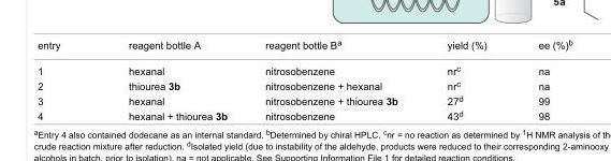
<table><tbody><tr><td>entry</td><td>reagent bottle A</td><td>reagent bottle B<sup>a</sup></td><td>yield (%)</td><td>ee (%)<sup>b</sup></td></tr><tr><td>1</td><td>hexanal</td><td>nitrosobenzene</td><td>nr<sup>c</sup></td><td>na</td></tr><tr><td>2</td><td>thiourea 3b</td><td>nitrosobenzene + hexanal</td><td>nr<sup>c</sup></td><td>na</td></tr><tr><td>3</td><td>hexanal</td><td>nitrosobenzene + thiourea 3b</td><td>27<sup>d</sup></td><td>99</td></tr><tr><td>4</td><td>hexanal + thiourea 3b</td><td>nitrosobenzene</td><td>43<sup>d</sup></td><td>98</td></tr></tbody></table>